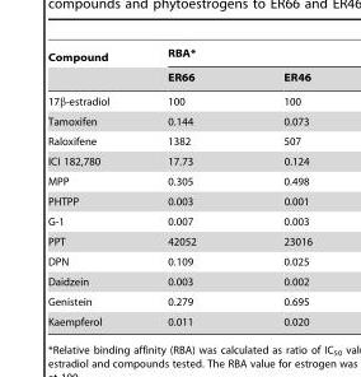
<table><thead><tr><td rowspan="2">Compound</td><td colspan="2">RBA*</td></tr><tr><td>ER66</td><td>ER46</td></tr></thead><tbody><tr><td>17β-estradiol</td><td>100</td><td>100</td></tr><tr><td>Tamoxifen</td><td>0.144</td><td>0.073</td></tr><tr><td>Raloxifene</td><td>1382</td><td>507</td></tr><tr><td>ICI 182,780</td><td>17.73</td><td>0.124</td></tr><tr><td>MPP</td><td>0.305</td><td>0.498</td></tr><tr><td>PHTPP</td><td>0.003</td><td>0.001</td></tr><tr><td>G-1</td><td>0.007</td><td>0.003</td></tr><tr><td>PPT</td><td>42052</td><td>23016</td></tr><tr><td>DPN</td><td>0.109</td><td>0.025</td></tr><tr><td>Daidzein</td><td>0.003</td><td>0.002</td></tr><tr><td>Genistein</td><td>0.279</td><td>0.695</td></tr><tr><td>Kaempferol</td><td>0.011</td><td>0.020</td></tr></tbody></table>